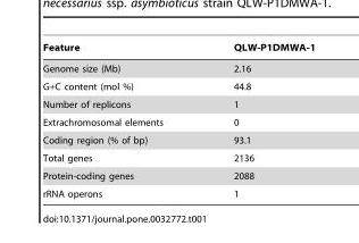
<table><thead><tr><td>Feature</td><td>QLW-P1DMWA-1</td></tr></thead><tbody><tr><td>Genome size (Mb)</td><td>2.16</td></tr><tr><td>G+C content (mol %)</td><td>44.8</td></tr><tr><td>Number of replicons</td><td>1</td></tr><tr><td>Extrachromosomal elements</td><td>0</td></tr><tr><td>Coding region (% of bp)</td><td>93.1</td></tr><tr><td>Total genes</td><td>2136</td></tr><tr><td>Protein-coding genes</td><td>2088</td></tr><tr><td>rRNA operons</td><td>1</td></tr></tbody></table>